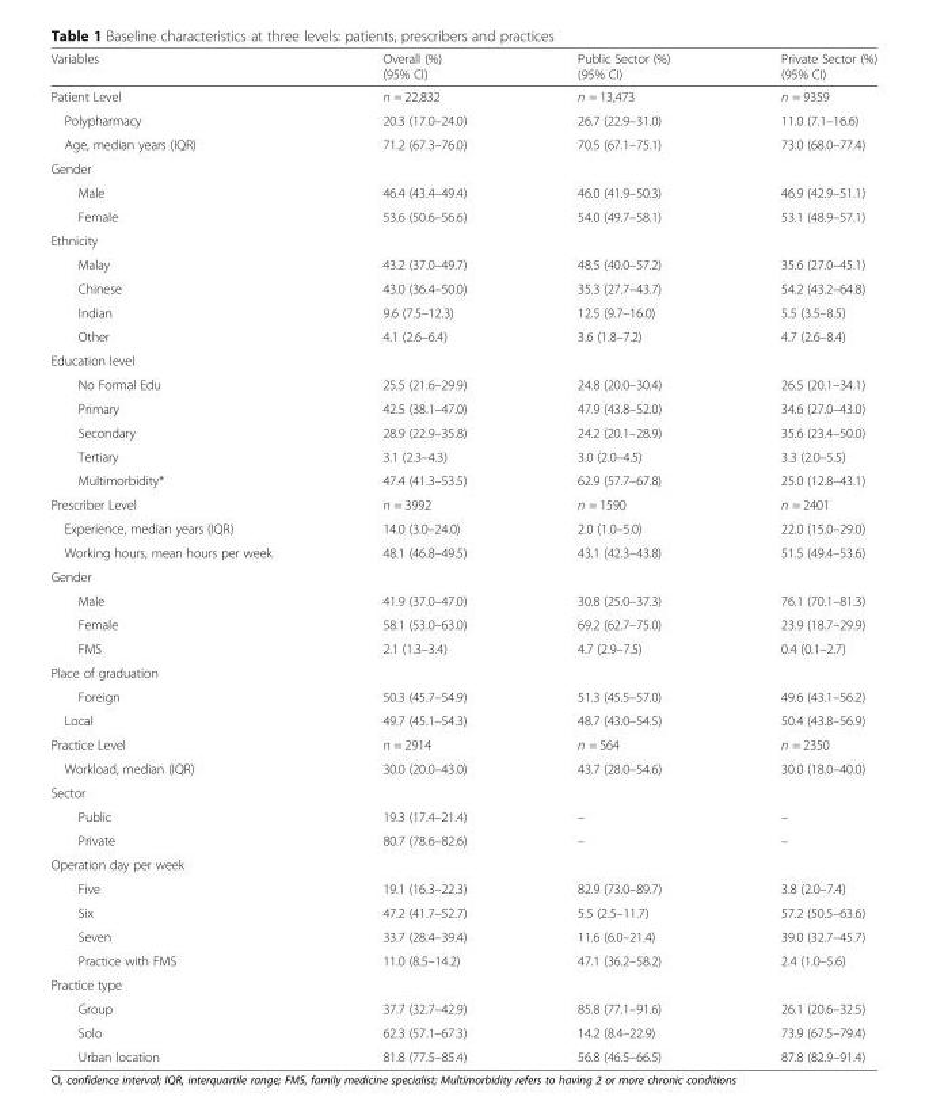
<table><thead><tr><td>Variables</td><td>Overall (%) (95% CI)</td><td>Public Sector (%) (95% CI)</td><td>Private Sector (%) (95% CI)</td></tr></thead><tbody><tr><td>Patient Level</td><td>n = 22,832</td><td>n = 13,473</td><td>n = 9359</td></tr><tr><td>Polypharmacy</td><td>20.3 (17.0–24.0)</td><td>26.7 (22.9–31.0)</td><td>11.0 (7.1–16.6)</td></tr><tr><td>Age, median years (IQR)</td><td>71.2 (67.3–76.0)</td><td>70.5 (67.1–75.1)</td><td>73.0 (68.0–77.4)</td></tr><tr><td colspan="4">Gender</td></tr><tr><td>Male</td><td>46.4 (43.4–49.4)</td><td>46.0 (41.9–50.3)</td><td>46.9 (42.9–51.1)</td></tr><tr><td>Female</td><td>53.6 (50.6–56.6)</td><td>54.0 (49.7–58.1)</td><td>53.1 (48.9–57.1)</td></tr><tr><td colspan="4">Ethnicity</td></tr><tr><td>Malay</td><td>43.2 (37.0–49.7)</td><td>48.5 (40.0–57.2)</td><td>35.6 (27.0–45.1)</td></tr><tr><td>Chinese</td><td>43.0 (36.4–50.0)</td><td>35.3 (27.7–43.7)</td><td>54.2 (43.2–64.8)</td></tr><tr><td>Indian</td><td>9.6 (7.5–12.3)</td><td>12.5 (9.7–16.0)</td><td>5.5 (3.5–8.5)</td></tr><tr><td>Other</td><td>4.1 (2.6–6.4)</td><td>3.6 (1.8–7.2)</td><td>4.7 (2.6–8.4)</td></tr><tr><td colspan="4">Education level</td></tr><tr><td>No Formal Edu</td><td>25.5 (21.6–29.9)</td><td>24.8 (20.0–30.4)</td><td>26.5 (20.1–34.1)</td></tr><tr><td>Primary</td><td>42.5 (38.1–47.0)</td><td>47.9 (43.8–52.0)</td><td>34.6 (27.0–43.0)</td></tr><tr><td>Secondary</td><td>28.9 (22.9–35.8)</td><td>24.2 (20.1–28.9)</td><td>35.6 (23.4–50.0)</td></tr><tr><td>Tertiary</td><td>3.1 (2.3–4.3)</td><td>3.0 (2.0–4.5)</td><td>3.3 (2.0–5.5)</td></tr><tr><td>Multimorbidity*</td><td>47.4 (41.3–53.5)</td><td>62.9 (57.7–67.8)</td><td>25.0 (12.8–43.1)</td></tr><tr><td>Prescriber Level</td><td>n = 3992</td><td>n = 1590</td><td>n = 2401</td></tr><tr><td>Experience, median years (IQR)</td><td>14.0 (3.0–24.0)</td><td>2.0 (1.0–5.0)</td><td>22.0 (15.0–29.0)</td></tr><tr><td>Working hours, mean hours per week</td><td>48.1 (46.8–49.5)</td><td>43.1 (42.3–43.8)</td><td>51.5 (49.4–53.6)</td></tr><tr><td colspan="4">Gender</td></tr><tr><td>Male</td><td>41.9 (37.0–47.0)</td><td>30.8 (25.0–37.3)</td><td>76.1 (70.1–81.3)</td></tr><tr><td>Female</td><td>58.1 (53.0–63.0)</td><td>69.2 (62.7–75.0)</td><td>23.9 (18.7–29.9)</td></tr><tr><td>FMS</td><td>2.1 (1.3–3.4)</td><td>4.7 (2.9–7.5)</td><td>0.4 (0.1–2.7)</td></tr><tr><td colspan="4">Place of graduation</td></tr><tr><td>Foreign</td><td>50.3 (45.7–54.9)</td><td>51.3 (45.5–57.0)</td><td>49.6 (43.1–56.2)</td></tr><tr><td>Local</td><td>49.7 (45.1–54.3)</td><td>48.7 (43.0–54.5)</td><td>50.4 (43.8–56.9)</td></tr><tr><td>Practice Level</td><td>n = 2914</td><td>n = 564</td><td>n = 2350</td></tr><tr><td>Workload, median (IQR)</td><td>30.0 (20.0–43.0)</td><td>43.7 (28.0–54.6)</td><td>30.0 (18.0–40.0)</td></tr><tr><td colspan="4">Sector</td></tr><tr><td>Public</td><td>19.3 (17.4–21.4)</td><td>–</td><td>–</td></tr><tr><td>Private</td><td>80.7 (78.6–82.6)</td><td>–</td><td>–</td></tr><tr><td colspan="4">Operation day per week</td></tr><tr><td>Five</td><td>19.1 (16.3–22.3)</td><td>82.9 (73.0–89.7)</td><td>3.8 (2.0–7.4)</td></tr><tr><td>Six</td><td>47.2 (41.7–52.7)</td><td>5.5 (2.5–11.7)</td><td>57.2 (50.5–63.6)</td></tr><tr><td>Seven</td><td>33.7 (28.4–39.4)</td><td>11.6 (6.0–21.4)</td><td>39.0 (32.7–45.7)</td></tr><tr><td>Practice with FMS</td><td>11.0 (8.5–14.2)</td><td>47.1 (36.2–58.2)</td><td>2.4 (1.0–5.6)</td></tr><tr><td colspan="4">Practice type</td></tr><tr><td>Group</td><td>37.7 (32.7–42.9)</td><td>85.8 (77.1–91.6)</td><td>26.1 (20.6–32.5)</td></tr><tr><td>Solo</td><td>62.3 (57.1–67.3)</td><td>14.2 (8.4–22.9)</td><td>73.9 (67.5–79.4)</td></tr><tr><td>Urban location</td><td>81.8 (77.5–85.4)</td><td>56.8 (46.5–66.5)</td><td>87.8 (82.9–91.4)</td></tr></tbody></table>